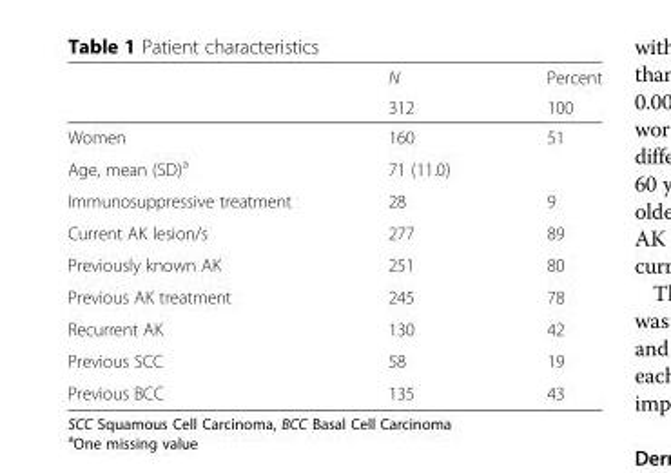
<table><thead><tr><td rowspan="2"></td><td rowspan="2">N 312</td><td rowspan="2">Percent 100</td></tr><tr></tr></thead><tbody><tr><td>Women</td><td>160</td><td>51</td></tr><tr><td>Age, mean (SD)<sup>a</sup></td><td>71 (11.0)</td><td></td></tr><tr><td>Immunosuppressive treatment</td><td>28</td><td>9</td></tr><tr><td>Current AK lesion/s</td><td>277</td><td>89</td></tr><tr><td>Previously known AK</td><td>251</td><td>80</td></tr><tr><td>Previous AK treatment</td><td>245</td><td>78</td></tr><tr><td>Recurrent AK</td><td>130</td><td>42</td></tr><tr><td>Previous SCC</td><td>58</td><td>19</td></tr><tr><td>Previous BCC</td><td>135</td><td>43</td></tr></tbody></table>